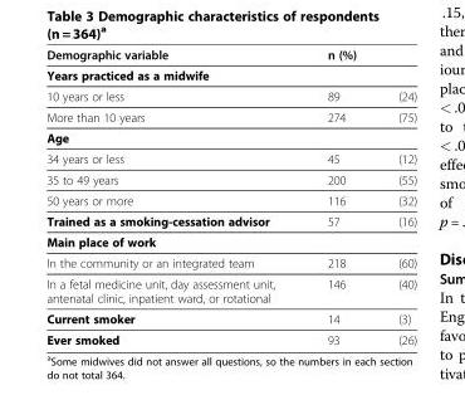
<table><thead><tr><td rowspan="2">Demographic variable Years practiced as a midwife</td><td colspan="2">n (%)</td></tr><tr><td></td><td></td></tr></thead><tbody><tr><td>10 years or less</td><td>89</td><td>(24)</td></tr><tr><td>More than 10 years</td><td>274</td><td>(75)</td></tr><tr><td colspan="3">Age</td></tr><tr><td>34 years or less</td><td>45</td><td>(12)</td></tr><tr><td>35 to 49 years</td><td>200</td><td>(55)</td></tr><tr><td>50 years or more</td><td>116</td><td>(32)</td></tr><tr><td>Trained as a smoking-cessation advisor</td><td>57</td><td>(16)</td></tr><tr><td colspan="3">Main place of work</td></tr><tr><td>In the community or an integrated team</td><td>218</td><td>(60)</td></tr><tr><td>In a fetal medicine unit, day assessment unit, antenatal clinic, inpatient ward, or rotational</td><td>146</td><td>(40)</td></tr><tr><td>Current smoker</td><td>14</td><td>(3)</td></tr><tr><td>Ever smoked</td><td>93</td><td>(26)</td></tr></tbody></table>